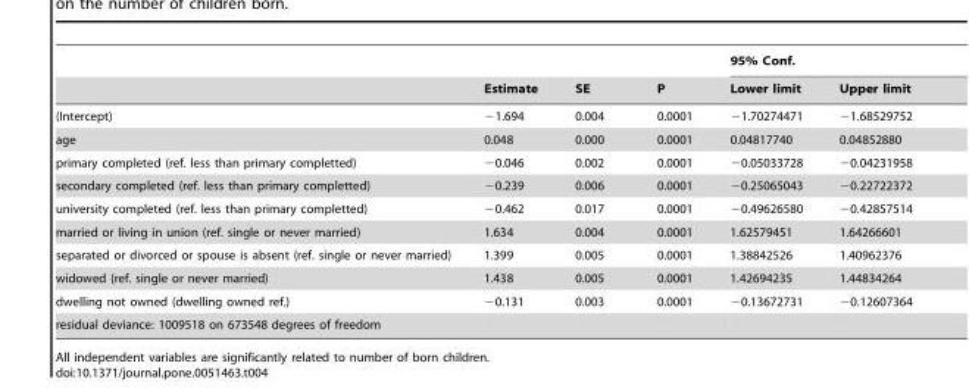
<table><thead><tr><td rowspan="2"></td><td rowspan="2">Estimate</td><td rowspan="2">SE</td><td rowspan="2">P</td><td colspan="2">95% Conf.</td></tr><tr><td>Lower limit</td><td>Upper limit</td></tr></thead><tbody><tr><td>(Intercept)</td><td>−1.694</td><td>0.004</td><td>0.0001</td><td>−1.70274471</td><td>−1.68529752</td></tr><tr><td>age</td><td>0.048</td><td>0.000</td><td>0.0001</td><td>0.04817740</td><td>0.04852880</td></tr><tr><td>primary completed (ref. less than primary completted)</td><td>−0.046</td><td>0.002</td><td>0.0001</td><td>−0.05033728</td><td>−0.04231958</td></tr><tr><td>secondary completed (ref. less than primary completted)</td><td>−0.239</td><td>0.006</td><td>0.0001</td><td>−0.25065043</td><td>−0.22722372</td></tr><tr><td>university completed (ref. less than primary completted)</td><td>−0.462</td><td>0.017</td><td>0.0001</td><td>−0.49626580</td><td>−0.42857514</td></tr><tr><td>married or living in union (ref. single or never married)</td><td>1.634</td><td>0.004</td><td>0.0001</td><td>1.62579451</td><td>1.64266601</td></tr><tr><td>separated or divorced or spouse is absent (ref. single or never married)</td><td>1.399</td><td>0.005</td><td>0.0001</td><td>1.38842526</td><td>1.40962376</td></tr><tr><td>widowed (ref. single or never married)</td><td>1.438</td><td>0.005</td><td>0.0001</td><td>1.42694235</td><td>1.44834264</td></tr><tr><td>dwelling not owned (dwelling owned ref.)</td><td>−0.131</td><td>0.003</td><td>0.0001</td><td>−0.13672731</td><td>−0.12607364</td></tr><tr><td>residual deviance: 1009518 on 673548 degrees of freedom</td><td></td><td></td><td></td><td></td><td></td></tr></tbody></table>